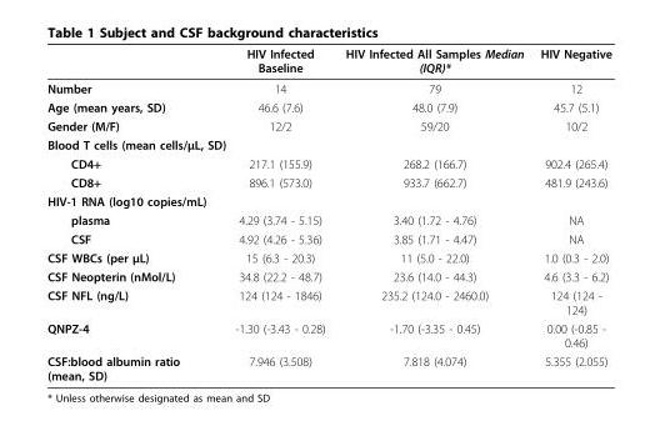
<table><thead><tr><td></td><td>HIV Infected Baseline</td><td>HIV Infected All Samples Median (IQR)*</td><td>HIV Negative</td></tr></thead><tbody><tr><td>Number</td><td>14</td><td>79</td><td>12</td></tr><tr><td>Age (mean years, SD)</td><td>46.6 (7.6)</td><td>48.0 (7.9)</td><td>45.7 (5.1)</td></tr><tr><td>Gender (M/F)</td><td>12/2</td><td>59/20</td><td>10/2</td></tr><tr><td colspan="4">Blood T cells (mean cells/μL, SD)</td></tr><tr><td>CD4+</td><td>217.1 (155.9)</td><td>268.2 (166.7)</td><td>902.4 (265.4)</td></tr><tr><td>CD8+</td><td>896.1 (573.0)</td><td>933.7 (662.7)</td><td>481.9 (243.6)</td></tr><tr><td colspan="4">HIV-1 RNA (log10 copies/mL)</td></tr><tr><td>plasma</td><td>4.29 (3.74 - 5.15)</td><td>3.40 (1.72 - 4.76)</td><td>NA</td></tr><tr><td>CSF</td><td>4.92 (4.26 - 5.36)</td><td>3.85 (1.71 - 4.47)</td><td>NA</td></tr><tr><td>CSF WBCs (per μL)</td><td>15 (6.3 - 20.3)</td><td>11 (5.0 - 22.0)</td><td>1.0 (0.3 - 2.0)</td></tr><tr><td>CSF Neopterin (nMol/L)</td><td>34.8 (22.2 - 48.7)</td><td>23.6 (14.0 - 44.3)</td><td>4.6 (3.3 - 6.2)</td></tr><tr><td>CSF NFL (ng/L)</td><td>124 (124 - 1846)</td><td>235.2 (124.0 - 2460.0)</td><td>124 (124 - 124)</td></tr><tr><td>QNPZ-4</td><td>-1.30 (-3.43 - 0.28)</td><td>-1.70 (-3.35 - 0.45)</td><td>0.00 (-0.85 - 0.46)</td></tr><tr><td>CSF:blood albumin ratio (mean, SD)</td><td>7.946 (3.508)</td><td>7.818 (4.074)</td><td>5.355 (2.055)</td></tr></tbody></table>